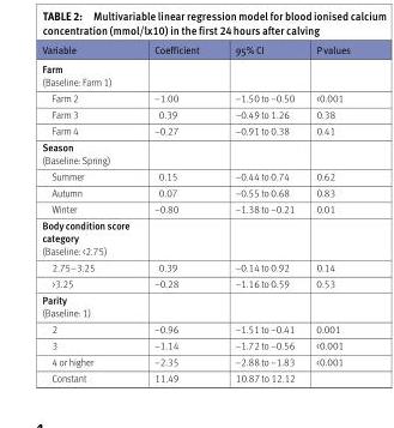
<table><thead><tr><td>Variable</td><td>Coefficient</td><td>95% CI</td><td>P values</td></tr></thead><tbody><tr><td colspan="4">Farm (Baseline: Farm 1)</td></tr><tr><td>Farm 2</td><td>−1.00</td><td>−1.50 to −0.50</td><td>&lt;0.001</td></tr><tr><td>Farm 3</td><td>0.39</td><td>−0.49 to 1.26</td><td>0.38</td></tr><tr><td>Farm 4</td><td>−0.27</td><td>−0.91 to 0.38</td><td>0.41</td></tr><tr><td colspan="4">Season (Baseline: Spring)</td></tr><tr><td>Summer</td><td>0.15</td><td>−0.44 to 0.74</td><td>0.62</td></tr><tr><td>Autumn</td><td>0.07</td><td>−0.55 to 0.68</td><td>0.83</td></tr><tr><td>Winter</td><td>−0.80</td><td>−1.38 to −0.21</td><td>0.01</td></tr><tr><td colspan="4">Body condition score category (Baseline: &lt;2.75)</td></tr><tr><td>2.75–3.25</td><td>0.39</td><td>−0.14 to 0.92</td><td>0.14</td></tr><tr><td>&gt;3.25</td><td>−0.28</td><td>−1.16 to 0.59</td><td>0.53</td></tr><tr><td colspan="4">Parity (Baseline: 1)</td></tr><tr><td>2</td><td>−0.96</td><td>−1.51 to −0.41</td><td>0.001</td></tr><tr><td>3</td><td>−1.14</td><td>−1.72 to −0.56</td><td>&lt;0.001</td></tr><tr><td>4 or higher</td><td>−2.35</td><td>−2.88 to −1.83</td><td>&lt;0.001</td></tr><tr><td>Constant</td><td>11.49</td><td>10.87 to 12.12</td><td></td></tr></tbody></table>